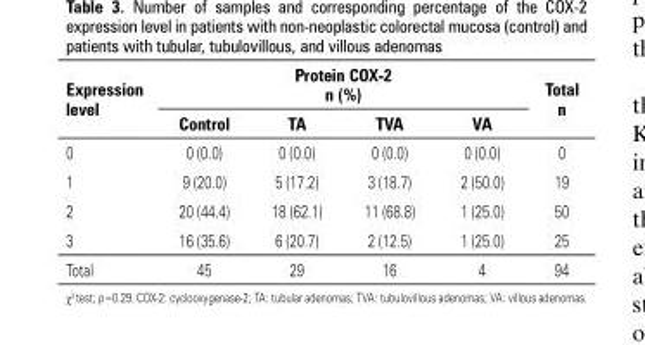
<table><thead><tr><td rowspan="2">Expression level</td><td colspan="4">Protein COX-2 n (%)</td><td rowspan="2">Total n</td></tr><tr><td>Control</td><td>TA</td><td>TVA</td><td>VA</td></tr></thead><tbody><tr><td>0</td><td>0 (0.0)</td><td>0 (0.0)</td><td>0 (0.0)</td><td>0 (0.0)</td><td>0</td></tr><tr><td>1</td><td>9 (20.0)</td><td>5 (17.2)</td><td>3 (18.7)</td><td>2 (50.0)</td><td>19</td></tr><tr><td>2</td><td>20 (44.4)</td><td>18 (62.1)</td><td>11 (68.8)</td><td>1 (25.0)</td><td>50</td></tr><tr><td>3</td><td>16 (35.6)</td><td>6 (20.7)</td><td>2 (12.5)</td><td>1 (25.0)</td><td>25</td></tr><tr><td>Total</td><td>45</td><td>29</td><td>16</td><td>4</td><td>94</td></tr></tbody></table>